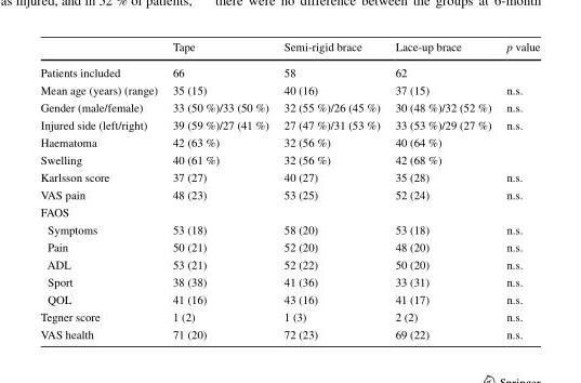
<table><thead><tr><td></td><td>Tape</td><td>Semi-rigid brace</td><td>Lace-up brace</td><td>p value</td></tr></thead><tbody><tr><td>Patients included</td><td>66</td><td>58</td><td>62</td><td></td></tr><tr><td>Mean age (years) (range)</td><td>35 (15)</td><td>40 (16)</td><td>37 (15)</td><td>n.s.</td></tr><tr><td>Gender (male/female)</td><td>33 (50 %)/33 (50 %)</td><td>32 (55 %)/26 (45 %)</td><td>30 (48 %)/32 (52 %)</td><td>n.s.</td></tr><tr><td>Injured side (left/right)</td><td>39 (59 %)/27 (41 %)</td><td>27 (47 %)/31 (53 %)</td><td>33 (53 %)/29 (27 %)</td><td>n.s.</td></tr><tr><td>Haematoma</td><td>42 (63 %)</td><td>32 (56 %)</td><td>40 (64 %)</td><td></td></tr><tr><td>Swelling</td><td>40 (61 %)</td><td>32 (56 %)</td><td>42 (68 %)</td><td></td></tr><tr><td>Karlsson score</td><td>37 (27)</td><td>40 (27)</td><td>35 (28)</td><td>n.s.</td></tr><tr><td>VAS pain</td><td>48 (23)</td><td>53 (25)</td><td>52 (24)</td><td>n.s.</td></tr><tr><td colspan="5">FAOS</td></tr><tr><td>Symptoms</td><td>53 (18)</td><td>58 (20)</td><td>53 (18)</td><td>n.s.</td></tr><tr><td>Pain</td><td>50 (21)</td><td>52 (20)</td><td>48 (20)</td><td>n.s.</td></tr><tr><td>ADL</td><td>53 (21)</td><td>52 (22)</td><td>50 (20)</td><td>n.s.</td></tr><tr><td>Sport</td><td>38 (38)</td><td>41 (36)</td><td>33 (31)</td><td>n.s.</td></tr><tr><td>QOL</td><td>41 (16)</td><td>43 (16)</td><td>41 (17)</td><td>n.s.</td></tr><tr><td>Tegner score</td><td>1 (2)</td><td>1 (3)</td><td>2 (2)</td><td>n.s.</td></tr><tr><td>VAS health</td><td>71 (20)</td><td>72 (23)</td><td>69 (22)</td><td>n.s.</td></tr></tbody></table>